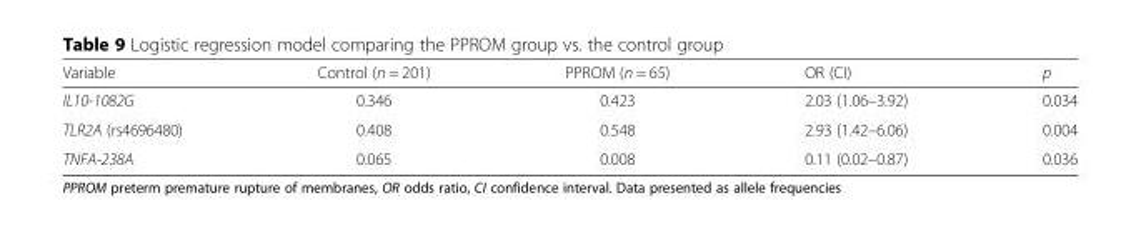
<table><thead><tr><td>Variable</td><td>Control (n = 201)</td><td>PPROM (n = 65)</td><td>OR (CI)</td><td>p</td></tr></thead><tbody><tr><td>IL10-1082G</td><td>0.346</td><td>0.423</td><td>2.03 (1.06–3.92)</td><td>0.034</td></tr><tr><td>TLR2A (rs4696480)</td><td>0.408</td><td>0.548</td><td>2.93 (1.42–6.06)</td><td>0.004</td></tr><tr><td>TNFA-238A</td><td>0.065</td><td>0.008</td><td>0.11 (0.02–0.87)</td><td>0.036</td></tr></tbody></table>